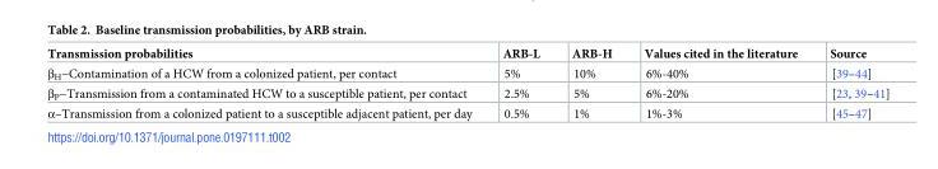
<table><thead><tr><td>Transmission probabilities</td><td>ARB-L</td><td>ARB-H</td><td>Values cited in the literature</td><td>Source</td></tr></thead><tbody><tr><td>β<sub>H</sub>−Contamination of a HCW from a colonized patient, per contact</td><td>5%</td><td>10%</td><td>6%-40%</td><td>[39–44]</td></tr><tr><td>β<sub>P</sub>−Transmission from a contaminated HCW to a susceptible patient, per contact</td><td>2.5%</td><td>5%</td><td>6%-20%</td><td>[23, 39–41]</td></tr><tr><td>α–Transmission from a colonized patient to a susceptible adjacent patient, per day</td><td>0.5%</td><td>1%</td><td>1%-3%</td><td>[45–47]</td></tr></tbody></table>